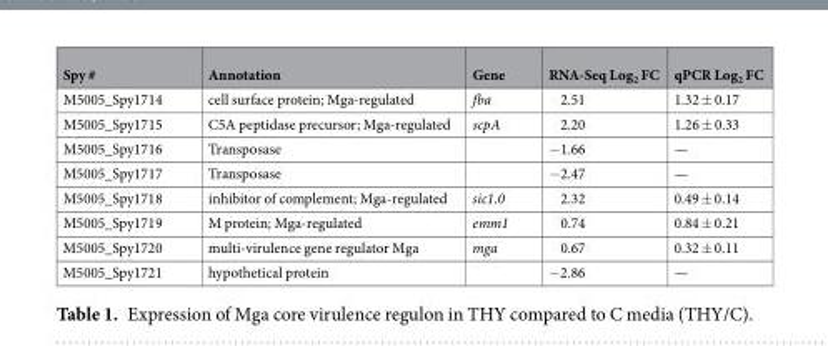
<table><thead><tr><td>Spy #</td><td>Annotation</td><td>Gene</td><td>RNA-Seq Log<sub>2</sub> FC</td><td>qPCR Log<sub>2</sub> FC</td></tr></thead><tbody><tr><td>M5005_Spy1714</td><td>cell surface protein; Mga-regulated</td><td>fba</td><td>2.51</td><td>1.32 ± 0.17</td></tr><tr><td>M5005_Spy1715</td><td>C5A peptidase precursor; Mga-regulated</td><td>scpA</td><td>2.20</td><td>1.26 ± 0.33</td></tr><tr><td>M5005_Spy1716</td><td>Transposase</td><td></td><td>−1.66</td><td>—</td></tr><tr><td>M5005_Spy1717</td><td>Transposase</td><td></td><td>−2.47</td><td>—</td></tr><tr><td>M5005_Spy1718</td><td>inhibitor of complement; Mga-regulated</td><td>sic1.0</td><td>2.32</td><td>0.49 ± 0.14</td></tr><tr><td>M5005_Spy1719</td><td>M protein; Mga-regulated</td><td>emm1</td><td>0.74</td><td>0.84 ± 0.21</td></tr><tr><td>M5005_Spy1720</td><td>multi-virulence gene regulator Mga</td><td>mga</td><td>0.67</td><td>0.32 ± 0.11</td></tr><tr><td>M5005_Spy1721</td><td>hypothetical protein</td><td></td><td>−2.86</td><td>—</td></tr></tbody></table>